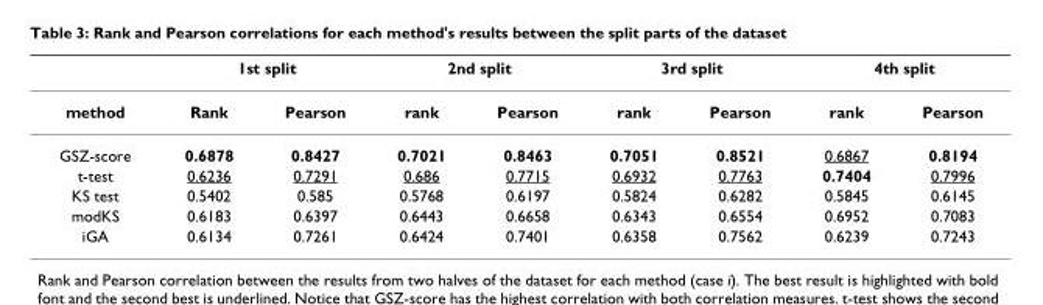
<table><thead><tr><td rowspan="2">method</td><td colspan="2">1st split</td><td colspan="2">2nd split</td><td colspan="2">3rd split</td><td colspan="2">4th split</td></tr><tr><td>Rank</td><td>Pearson</td><td>rank</td><td>Pearson</td><td>rank</td><td>Pearson</td><td>rank</td><td>Pearson</td></tr></thead><tbody><tr><td>GSZ-score</td><td>0.6878</td><td>0.8427</td><td>0.7021</td><td>0.8463</td><td>0.7051</td><td>0.8521</td><td>0.6867</td><td>0.8194</td></tr><tr><td>t-test</td><td>0.6236</td><td>0.7291</td><td>0.686</td><td>0.7715</td><td>0.6932</td><td>0.7763</td><td>0.7404</td><td>0.7996</td></tr><tr><td>KS test</td><td>0.5402</td><td>0.585</td><td>0.5768</td><td>0.6197</td><td>0.5824</td><td>0.6282</td><td>0.5845</td><td>0.6145</td></tr><tr><td>modKS</td><td>0.6183</td><td>0.6397</td><td>0.6443</td><td>0.6658</td><td>0.6343</td><td>0.6554</td><td>0.6952</td><td>0.7083</td></tr><tr><td>iGA</td><td>0.6134</td><td>0.7261</td><td>0.6424</td><td>0.7401</td><td>0.6358</td><td>0.7562</td><td>0.6239</td><td>0.7243</td></tr></tbody></table>